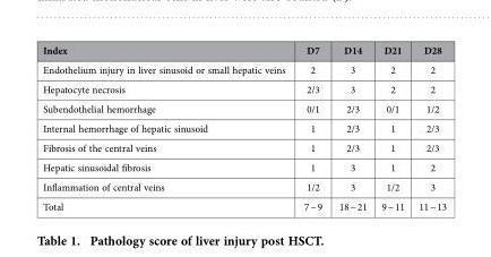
<table><thead><tr><td>Index</td><td>D7</td><td>D14</td><td>D21</td><td>D28</td></tr></thead><tbody><tr><td>Endothelium injury in liver sinusoid or small hepatic veins</td><td>2</td><td>3</td><td>2</td><td>2</td></tr><tr><td>Hepatocyte necrosis</td><td>2/3</td><td>3</td><td>2</td><td>2</td></tr><tr><td>Subendothelial hemorrhage</td><td>0/1</td><td>2/3</td><td>0/1</td><td>1/2</td></tr><tr><td>Internal hemorrhage of hepatic sinusoid</td><td>1</td><td>2/3</td><td>1</td><td>2/3</td></tr><tr><td>Fibrosis of the central veins</td><td>1</td><td>2/3</td><td>1</td><td>2/3</td></tr><tr><td>Hepatic sinusoidal fibrosis</td><td>1</td><td>3</td><td>1</td><td>2</td></tr><tr><td>Inflammation of central veins</td><td>1/2</td><td>3</td><td>1/2</td><td>3</td></tr><tr><td>Total</td><td>7 ~ 9</td><td>18 ~ 21</td><td>9 ~ 11</td><td>11 ~ 13</td></tr></tbody></table>